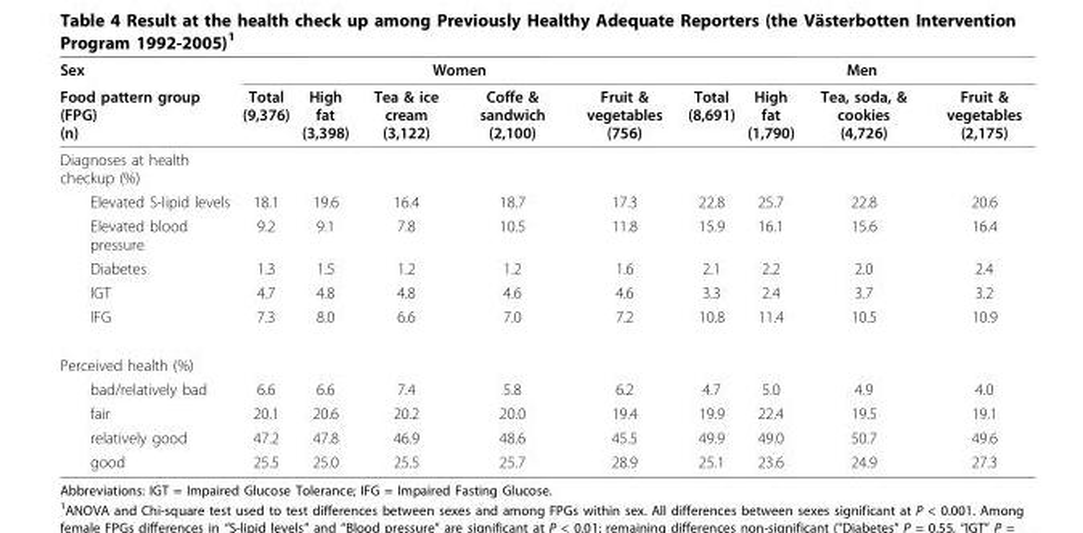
<table><thead><tr><td rowspan="2">Sex Food pattern group (FPG) (n)</td><td colspan="5">Women</td><td colspan="4">Men</td></tr><tr><td>Total (9,376)</td><td>High fat (3,398)</td><td>Tea &amp; ice cream (3,122)</td><td>Coffe &amp; sandwich (2,100)</td><td>Fruit &amp; vegetables (756)</td><td>Total (8,691)</td><td>High fat (1,790)</td><td>Tea, soda, &amp; cookies (4,726)</td><td>Fruit &amp; vegetables (2,175)</td></tr></thead><tbody><tr><td colspan="10">Diagnoses at health checkup (%)</td></tr><tr><td>Elevated S-lipid levels</td><td>18.1</td><td>19.6</td><td>16.4</td><td>18.7</td><td>17.3</td><td>22.8</td><td>25.7</td><td>22.8</td><td>20.6</td></tr><tr><td>Elevated blood pressure</td><td>9.2</td><td>9.1</td><td>7.8</td><td>10.5</td><td>11.8</td><td>15.9</td><td>16.1</td><td>15.6</td><td>16.4</td></tr><tr><td>Diabetes</td><td>1.3</td><td>1.5</td><td>1.2</td><td>1.2</td><td>1.6</td><td>2.1</td><td>2.2</td><td>2.0</td><td>2.4</td></tr><tr><td>IGT</td><td>4.7</td><td>4.8</td><td>4.8</td><td>4.6</td><td>4.6</td><td>3.3</td><td>2.4</td><td>3.7</td><td>3.2</td></tr><tr><td>IFG</td><td>7.3</td><td>8.0</td><td>6.6</td><td>7.0</td><td>7.2</td><td>10.8</td><td>11.4</td><td>10.5</td><td>10.9</td></tr><tr><td colspan="10">Perceived health (%)</td></tr><tr><td>bad/relatively bad</td><td>6.6</td><td>6.6</td><td>7.4</td><td>5.8</td><td>6.2</td><td>4.7</td><td>5.0</td><td>4.9</td><td>4.0</td></tr><tr><td>fair</td><td>20.1</td><td>20.6</td><td>20.2</td><td>20.0</td><td>19.4</td><td>19.9</td><td>22.4</td><td>19.5</td><td>19.1</td></tr><tr><td>relatively good</td><td>47.2</td><td>47.8</td><td>46.9</td><td>48.6</td><td>45.5</td><td>49.9</td><td>49.0</td><td>50.7</td><td>49.6</td></tr><tr><td>good</td><td>25.5</td><td>25.0</td><td>25.5</td><td>25.7</td><td>28.9</td><td>25.1</td><td>23.6</td><td>24.9</td><td>27.3</td></tr></tbody></table>